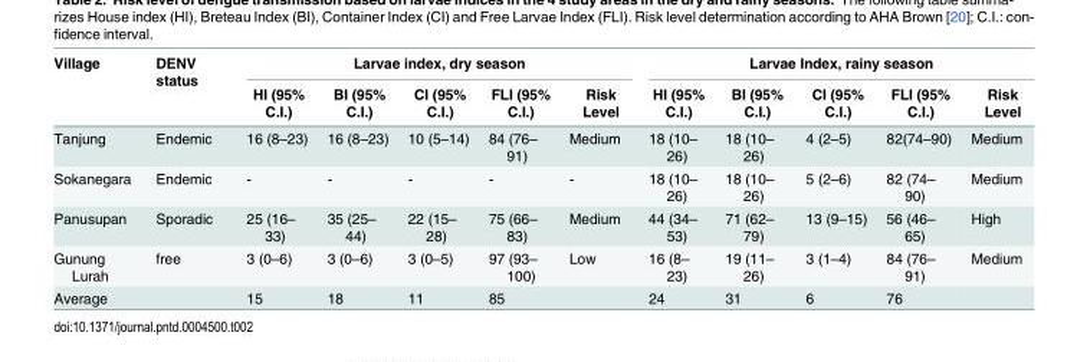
<table><thead><tr><td rowspan="2">Village</td><td rowspan="2">DENV status</td><td colspan="5">Larvae index, dry season</td><td colspan="5">Larvae Index, rainy season</td></tr><tr><td>HI (95% C.I.)</td><td>BI (95% C.I.)</td><td>CI (95% C.I.)</td><td>FLI (95% C.I.)</td><td>Risk Level</td><td>HI (95% C.I.)</td><td>BI (95% C.I.)</td><td>CI (95% C.I.)</td><td>FLI (95% C.I.)</td><td>Risk Level</td></tr></thead><tbody><tr><td>Tanjung</td><td>Endemic</td><td>16 (8–23)</td><td>16 (8–23)</td><td>10 (5–14)</td><td>84 (76– 91)</td><td>Medium</td><td>18 (10– 26)</td><td>18 (10– 26)</td><td>4 (2–5)</td><td>82(74–90)</td><td>Medium</td></tr><tr><td>Sokanegara</td><td>Endemic</td><td>-</td><td>-</td><td>-</td><td>-</td><td>-</td><td>18 (10– 26)</td><td>18 (10– 26)</td><td>5 (2–6)</td><td>82 (74– 90)</td><td>Medium</td></tr><tr><td>Panusupan</td><td>Sporadic</td><td>25 (16– 33)</td><td>35 (25– 44)</td><td>22 (15– 28)</td><td>75 (66– 83)</td><td>Medium</td><td>44 (34– 53)</td><td>71 (62– 79)</td><td>13 (9–15)</td><td>56 (46– 65)</td><td>High</td></tr><tr><td>Gunung Lurah</td><td>free</td><td>3 (0–6)</td><td>3 (0–6)</td><td>3 (0–5)</td><td>97 (93– 100)</td><td>Low</td><td>16 (8– 23)</td><td>19 (11– 26)</td><td>3 (1–4)</td><td>84 (76– 91)</td><td>Medium</td></tr><tr><td>Average</td><td></td><td>15</td><td>18</td><td>11</td><td>85</td><td></td><td>24</td><td>31</td><td>6</td><td>76</td><td></td></tr></tbody></table>